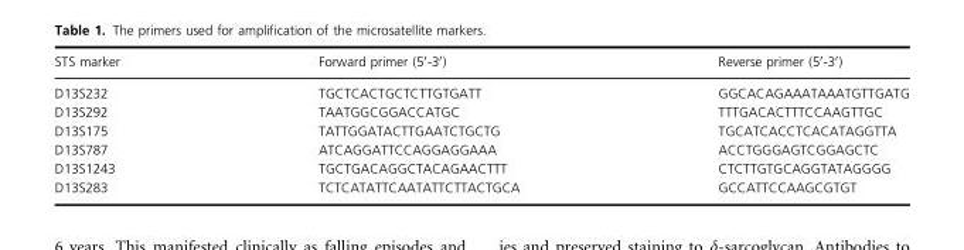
<table><thead><tr><td>STS marker</td><td>Forward primer (5′-3′)</td><td>Reverse primer (5′-3′)</td></tr></thead><tbody><tr><td>D13S232</td><td>TGCTCACTGCTCTTGTGATT</td><td>GGCACAGAAATAAATGTTGATG</td></tr><tr><td>D13S292</td><td>TAATGGCGGACCATGC</td><td>TTTGACACTTTCCAAGTTGC</td></tr><tr><td>D13S175</td><td>TATTGGATACTTGAATCTGCTG</td><td>TGCATCACCTCACATAGGTTA</td></tr><tr><td>D13S787</td><td>ATCAGGATTCCAGGAGGAAA</td><td>ACCTGGGAGTCGGAGCTC</td></tr><tr><td>D13S1243</td><td>TGCTGACAGGCTACAGAACTTT</td><td>CTCTTGTGCAGGTATAGGGG</td></tr><tr><td>D13S283</td><td>TCTCATATTCAATATTCTTACTGCA</td><td>GCCATTCCAAGCGTGT</td></tr></tbody></table>